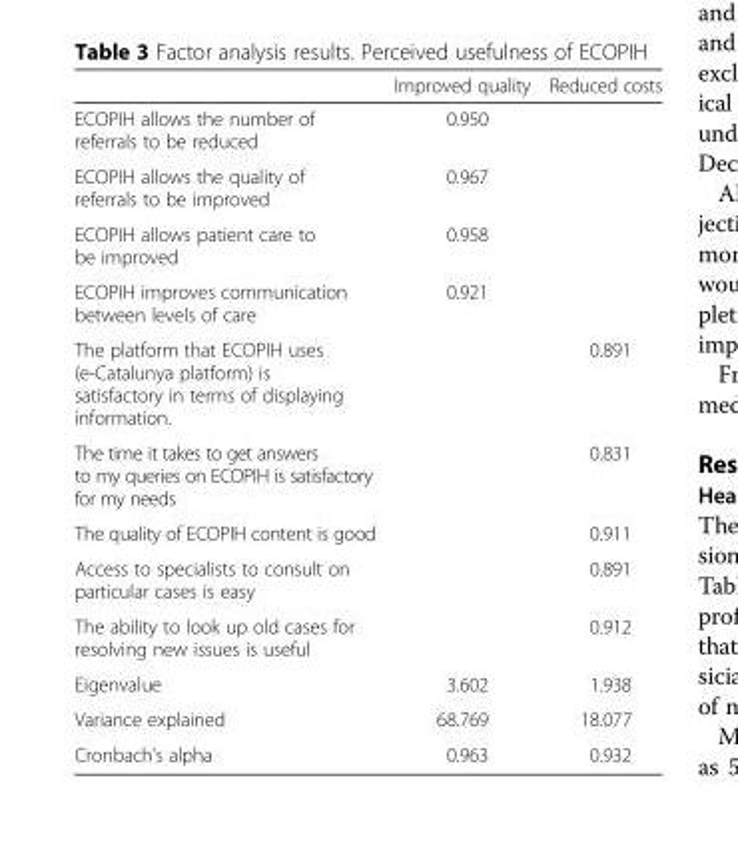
<table><thead><tr><td></td><td>Improved quality</td><td>Reduced costs</td></tr></thead><tbody><tr><td>ECOPIH allows the number of referrals to be reduced</td><td>0.950</td><td></td></tr><tr><td>ECOPIH allows the quality of referrals to be improved</td><td>0.967</td><td></td></tr><tr><td>ECOPIH allows patient care to be improved</td><td>0.958</td><td></td></tr><tr><td>ECOPIH improves communication between levels of care</td><td>0.921</td><td></td></tr><tr><td>The platform that ECOPIH uses (e-Catalunya platform) is satisfactory in terms of displaying information.</td><td></td><td>0.891</td></tr><tr><td>The time it takes to get answers to my queries on ECOPIH is satisfactory for my needs</td><td></td><td>0.831</td></tr><tr><td>The quality of ECOPIH content is good</td><td></td><td>0.911</td></tr><tr><td>Access to specialists to consult on particular cases is easy</td><td></td><td>0.891</td></tr><tr><td>The ability to look up old cases for resolving new issues is useful</td><td></td><td>0.912</td></tr><tr><td>Eigenvalue</td><td>3.602</td><td>1.938</td></tr><tr><td>Variance explained</td><td>68.769</td><td>18.077</td></tr><tr><td>Cronbach’s alpha</td><td>0.963</td><td>0.932</td></tr></tbody></table>